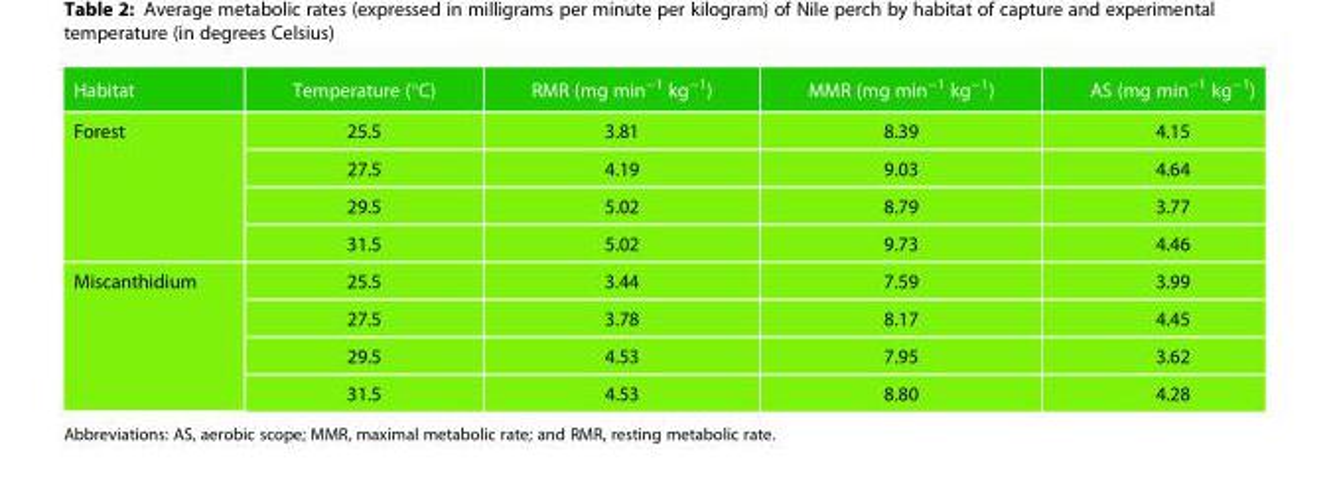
<table><thead><tr><td>Habitat</td><td>Temperature (°C)</td><td>RMR (mg min<sup>−1</sup> kg<sup>−1</sup>)</td><td>MMR (mg min<sup>−1</sup> kg<sup>−1</sup>)</td><td>AS (mg min<sup>−1</sup> kg<sup>−1</sup>)</td></tr></thead><tbody><tr><td rowspan="4">Forest</td><td>25.5</td><td>3.81</td><td>8.39</td><td>4.15</td></tr><tr><td>27.5</td><td>4.19</td><td>9.03</td><td>4.64</td></tr><tr><td>29.5</td><td>5.02</td><td>8.79</td><td>3.77</td></tr><tr><td>31.5</td><td>5.02</td><td>9.73</td><td>4.46</td></tr><tr><td rowspan="4">Miscanthidium</td><td>25.5</td><td>3.44</td><td>7.59</td><td>3.99</td></tr><tr><td>27.5</td><td>3.78</td><td>8.17</td><td>4.45</td></tr><tr><td>29.5</td><td>4.53</td><td>7.95</td><td>3.62</td></tr><tr><td>31.5</td><td>4.53</td><td>8.80</td><td>4.28</td></tr></tbody></table>